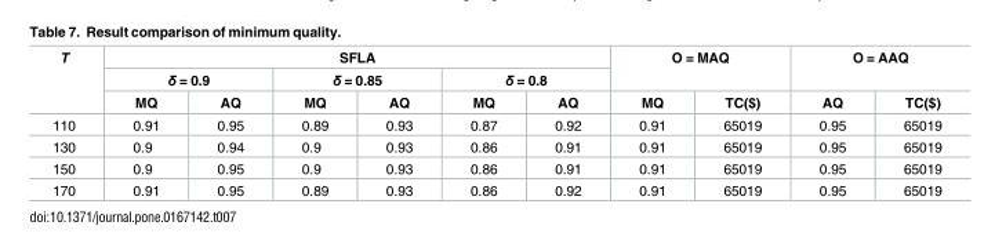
<table><thead><tr><td rowspan="3">T</td><td colspan="6">SFLA</td><td rowspan="2" colspan="2">O = MAQ</td><td rowspan="2" colspan="2">O = AAQ</td></tr><tr><td colspan="2">δ = 0.9</td><td colspan="2">δ = 0.85</td><td colspan="2">δ = 0.8</td></tr><tr><td>MQ</td><td>AQ</td><td>MQ</td><td>AQ</td><td>MQ</td><td>AQ</td><td>MQ</td><td>TC($)</td><td>AQ</td><td>TC($)</td></tr></thead><tbody><tr><td>110</td><td>0.91</td><td>0.95</td><td>0.89</td><td>0.93</td><td>0.87</td><td>0.92</td><td>0.91</td><td>65019</td><td>0.95</td><td>65019</td></tr><tr><td>130</td><td>0.9</td><td>0.94</td><td>0.9</td><td>0.93</td><td>0.86</td><td>0.91</td><td>0.91</td><td>65019</td><td>0.95</td><td>65019</td></tr><tr><td>150</td><td>0.9</td><td>0.95</td><td>0.9</td><td>0.93</td><td>0.86</td><td>0.91</td><td>0.91</td><td>65019</td><td>0.95</td><td>65019</td></tr><tr><td>170</td><td>0.91</td><td>0.95</td><td>0.89</td><td>0.93</td><td>0.86</td><td>0.92</td><td>0.91</td><td>65019</td><td>0.95</td><td>65019</td></tr></tbody></table>